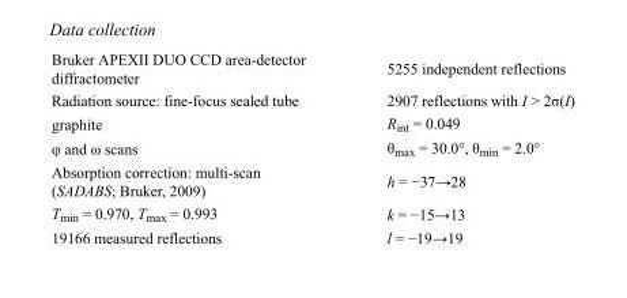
<table><tbody><tr><td>Bruker APEXII DUO CCD area-detector diffractometer</td><td>5255 independent reflections</td></tr><tr><td>Radiation source: fine-focus sealed tube</td><td>2907 reflections with I &gt; 2σ(I)</td></tr><tr><td>graphite</td><td>R<sub>int</sub> = 0.049</td></tr><tr><td>φ and ω scans</td><td>θ<sub>max</sub> = 30.0°, θ<sub>min</sub> = 2.0°</td></tr><tr><td>Absorption correction: multi-scan (SADABS; Bruker, 2009)</td><td>h = −37→28</td></tr><tr><td>T<sub>min</sub> = 0.970, T<sub>max</sub> = 0.993</td><td>k = −15→13</td></tr><tr><td>19166 measured reflections</td><td>l = −19→19</td></tr></tbody></table>